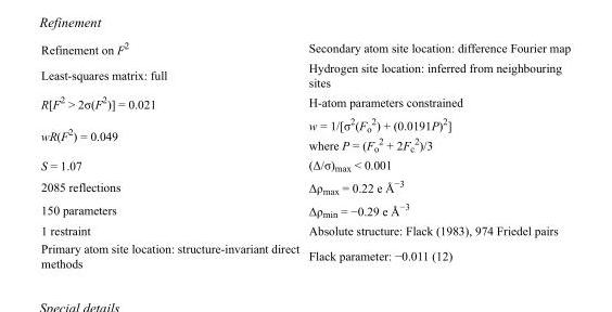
<table><tbody><tr><td>Refinement on F<sup>2</sup></td><td>Secondary atom site location: difference Fourier map</td></tr><tr><td>Least-squares matrix: full</td><td>Hydrogen site location: inferred from neighbouring sites</td></tr><tr><td>R[F<sup>2</sup> &gt; 2σ(F<sup>2</sup>)] = 0.021</td><td>H-atom parameters constrained</td></tr><tr><td>wR(F<sup>2</sup>) = 0.049</td><td>w = 1/[σ<sup>2</sup>(F<sub>o</sub> <sup>2</sup>) + (0.0191P)<sup>2</sup>] where P = (F<sub>o</sub> <sup>2</sup> + 2F<sub>c</sub> <sup>2</sup>)/3</td></tr><tr><td>S = 1.07</td><td>(Δ/σ)<sub>max</sub> &lt; 0.001</td></tr><tr><td>2085 reflections</td><td>Δρ<sub>max</sub> = 0.22 e Å<sup>−3</sup></td></tr><tr><td>150 parameters</td><td>Δρ<sub>min</sub> = −0.29 e Å<sup>−3</sup></td></tr><tr><td>1 restraint</td><td>Absolute structure: Flack (1983), 974 Friedel pairs</td></tr><tr><td>Primary atom site location: structure-invariant direct methods</td><td>Flack parameter: −0.011 (12)</td></tr></tbody></table>